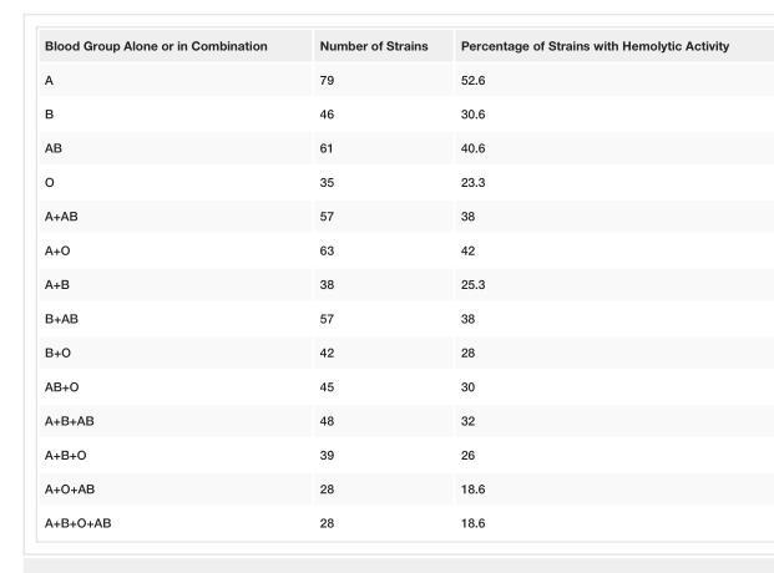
<table><tbody><tr><td>Blood Group Alone or in Combination</td><td>Number of Strains</td><td>Percentage of Strains with Hemolytic Activity</td></tr><tr><td>A</td><td>79</td><td>52.6</td></tr><tr><td>B</td><td>46</td><td>30.6</td></tr><tr><td>AB</td><td>61</td><td>40.6</td></tr><tr><td>O</td><td>35</td><td>23.3</td></tr><tr><td>A+AB</td><td>57</td><td>38</td></tr><tr><td>A+O</td><td>63</td><td>42</td></tr><tr><td>A+B</td><td>38</td><td>25.3</td></tr><tr><td>B+AB</td><td>57</td><td>38</td></tr><tr><td>B+O</td><td>42</td><td>28</td></tr><tr><td>AB+O</td><td>45</td><td>30</td></tr><tr><td>A+B+AB</td><td>48</td><td>32</td></tr><tr><td>A+B+O</td><td>39</td><td>26</td></tr><tr><td>A+O+AB</td><td>28</td><td>18.6</td></tr><tr><td>A+B+O+AB</td><td>28</td><td>18.6</td></tr></tbody></table>